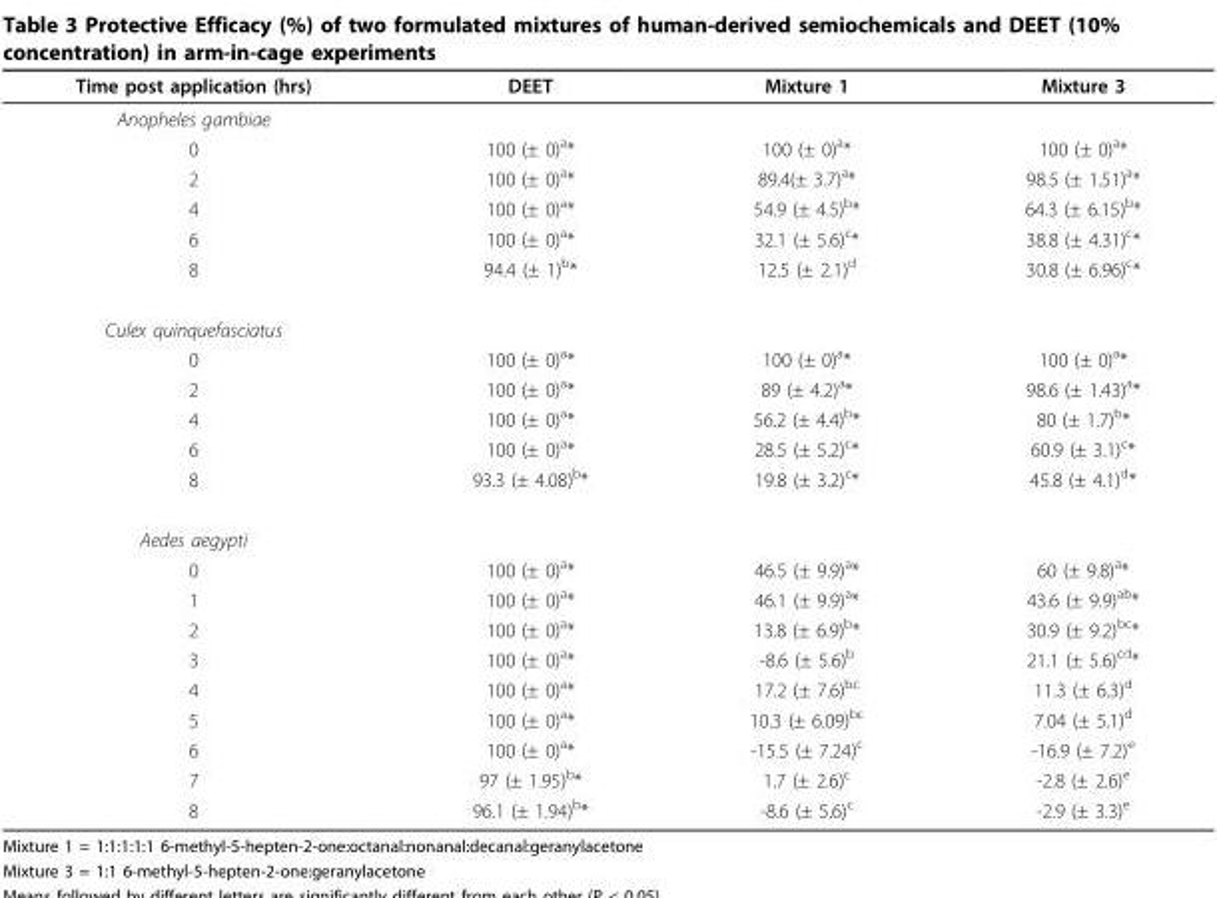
<table><thead><tr><td>Time post application (hrs)</td><td>DEET</td><td>Mixture 1</td><td>Mixture 3</td></tr></thead><tbody><tr><td colspan="4">Anopheles gambiae</td></tr><tr><td>0</td><td>100 (± 0)<sup>a</sup>*</td><td>100 (± 0)<sup>a</sup>*</td><td>100 (± 0)<sup>a</sup>*</td></tr><tr><td>2</td><td>100 (± 0)<sup>a</sup>*</td><td>89.4(± 3.7)<sup>a</sup>*</td><td>98.5 (± 1.51)<sup>a</sup>*</td></tr><tr><td>4</td><td>100 (± 0)<sup>a</sup>*</td><td>54.9 (± 4.5)<sup>b</sup>*</td><td>64.3 (± 6.15)<sup>b</sup>*</td></tr><tr><td>6</td><td>100 (± 0)<sup>a</sup>*</td><td>32.1 (± 5.6)<sup>c</sup>*</td><td>38.8 (± 4.31)<sup>c</sup>*</td></tr><tr><td>8</td><td>94.4 (± 1)<sup>b</sup>*</td><td>12.5 (± 2.1)<sup>d</sup></td><td>30.8 (± 6.96)<sup>c</sup>*</td></tr><tr><td colspan="4">Culex quinquefasciatus</td></tr><tr><td>0</td><td>100 (± 0)<sup>a</sup>*</td><td>100 (± 0)<sup>a</sup>*</td><td>100 (± 0)<sup>a</sup>*</td></tr><tr><td>2</td><td>100 (± 0)<sup>a</sup>*</td><td>89 (± 4.2)<sup>a</sup>*</td><td>98.6 (± 1.43)<sup>a</sup>*</td></tr><tr><td>4</td><td>100 (± 0)<sup>a</sup>*</td><td>56.2 (± 4.4)<sup>b</sup>*</td><td>80 (± 1.7)<sup>b</sup>*</td></tr><tr><td>6</td><td>100 (± 0)<sup>a</sup>*</td><td>28.5 (± 5.2)<sup>c</sup>*</td><td>60.9 (± 3.1)<sup>c</sup>*</td></tr><tr><td>8</td><td>93.3 (± 4.08)<sup>b</sup>*</td><td>19.8 (± 3.2)<sup>c</sup>*</td><td>45.8 (± 4.1)<sup>d</sup>*</td></tr><tr><td colspan="4">Aedes aegypti</td></tr><tr><td>0</td><td>100 (± 0)<sup>a</sup>*</td><td>46.5 (± 9.9)<sup>a</sup>*</td><td>60 (± 9.8)<sup>a</sup>*</td></tr><tr><td>1</td><td>100 (± 0)<sup>a</sup>*</td><td>46.1 (± 9.9)<sup>a</sup>*</td><td>43.6 (± 9.9)<sup>ab</sup>*</td></tr><tr><td>2</td><td>100 (± 0)<sup>a</sup>*</td><td>13.8 (± 6.9)<sup>b</sup>*</td><td>30.9 (± 9.2)<sup>bc</sup>*</td></tr><tr><td>3</td><td>100 (± 0)<sup>a</sup>*</td><td>-8.6 (± 5.6)<sup>b</sup></td><td>21.1 (± 5.6)<sup>cd</sup>*</td></tr><tr><td>4</td><td>100 (± 0)<sup>a</sup>*</td><td>17.2 (± 7.6)<sup>bc</sup></td><td>11.3 (± 6.3)<sup>d</sup></td></tr><tr><td>5</td><td>100 (± 0)<sup>a</sup>*</td><td>10.3 (± 6.09)<sup>bc</sup></td><td>7.04 (± 5.1)<sup>d</sup></td></tr><tr><td>6</td><td>100 (± 0)<sup>a</sup>*</td><td>-15.5 (± 7.24)<sup>c</sup></td><td>-16.9 (± 7.2)<sup>e</sup></td></tr><tr><td>7</td><td>97 (± 1.95)<sup>b</sup>*</td><td>1.7 (± 2.6)<sup>c</sup></td><td>-2.8 (± 2.6)<sup>e</sup></td></tr><tr><td>8</td><td>96.1 (± 1.94)<sup>b</sup>*</td><td>-8.6 (± 5.6)<sup>c</sup></td><td>-2.9 (± 3.3)<sup>e</sup></td></tr></tbody></table>